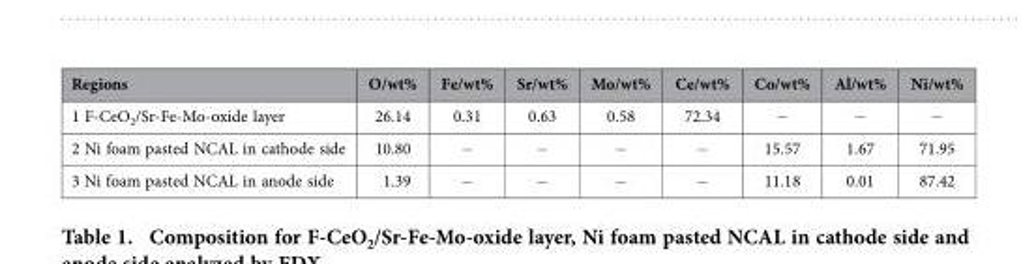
<table><thead><tr><td>Regions</td><td>O/wt%</td><td>Fe/wt%</td><td>Sr/wt%</td><td>Mo/wt%</td><td>Ce/wt%</td><td>Co/wt%</td><td>Al/wt%</td><td>Ni/wt%</td></tr></thead><tbody><tr><td>1 F-CeO<sub>2</sub>/Sr-Fe-Mo-oxide layer</td><td>26.14</td><td>0.31</td><td>0.63</td><td>0.58</td><td>72.34</td><td>−</td><td>−</td><td>−</td></tr><tr><td>2 Ni foam pasted NCAL in cathode side</td><td>10.80</td><td>−</td><td>−</td><td>−</td><td>−</td><td>15.57</td><td>1.67</td><td>71.95</td></tr><tr><td>3 Ni foam pasted NCAL in anode side</td><td>1.39</td><td>−</td><td>−</td><td>−</td><td>−</td><td>11.18</td><td>0.01</td><td>87.42</td></tr></tbody></table>